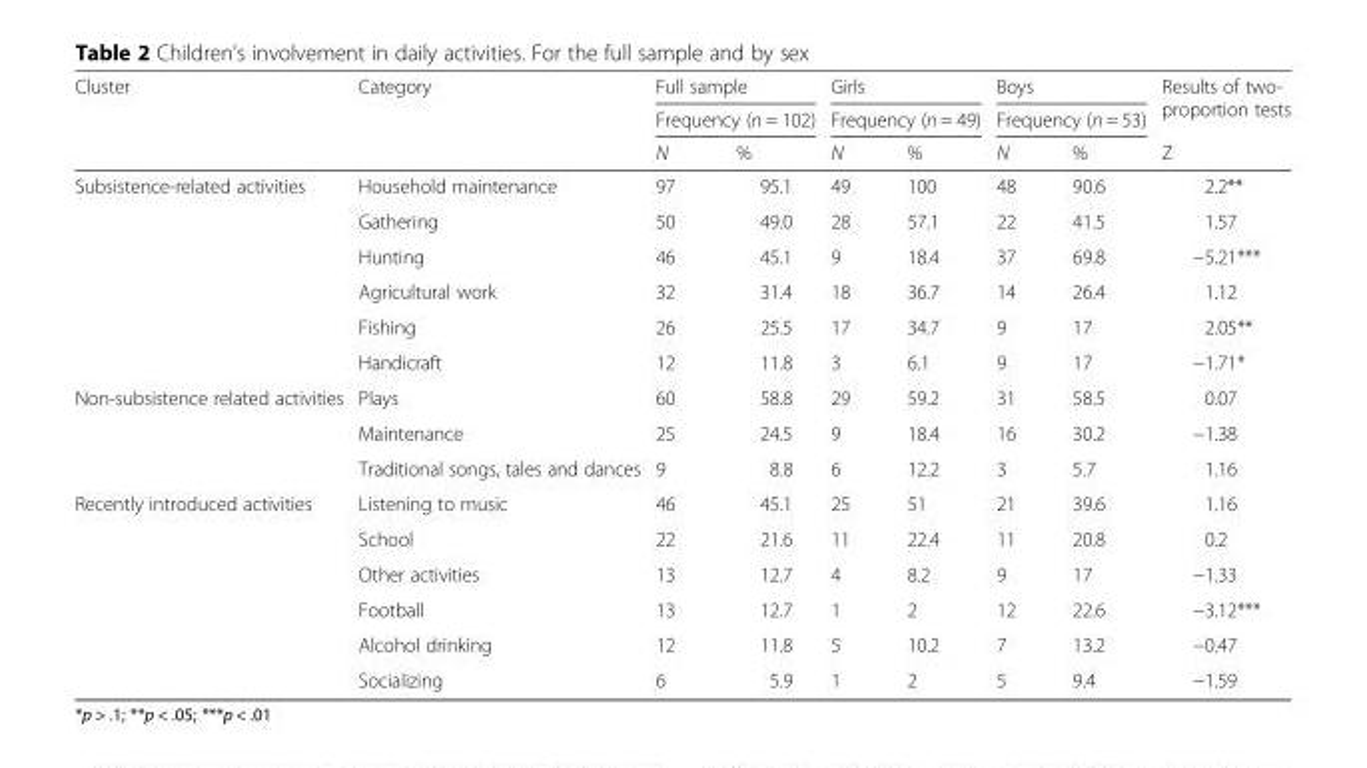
<table><thead><tr><td rowspan="3">Cluster</td><td rowspan="3">Category</td><td rowspan="2" colspan="2">Full sample Frequency (n = 102)</td><td rowspan="2" colspan="2">Girls Frequency (n = 49)</td><td rowspan="2" colspan="2">Boys Frequency (n = 53)</td><td rowspan="3">Results of two- proportion tests Z</td></tr><tr></tr><tr><td>N</td><td>%</td><td>N</td><td>%</td><td>N</td><td>%</td></tr></thead><tbody><tr><td rowspan="6">Subsistence-related activities</td><td>Household maintenance</td><td>97</td><td>95.1</td><td>49</td><td>100</td><td>48</td><td>90.6</td><td>2.2**</td></tr><tr><td>Gathering</td><td>50</td><td>49.0</td><td>28</td><td>57.1</td><td>22</td><td>41.5</td><td>1.57</td></tr><tr><td>Hunting</td><td>46</td><td>45.1</td><td>9</td><td>18.4</td><td>37</td><td>69.8</td><td>−5.21***</td></tr><tr><td>Agricultural work</td><td>32</td><td>31.4</td><td>18</td><td>36.7</td><td>14</td><td>26.4</td><td>1.12</td></tr><tr><td>Fishing</td><td>26</td><td>25.5</td><td>17</td><td>34.7</td><td>9</td><td>17</td><td>2.05**</td></tr><tr><td>Handicraft</td><td>12</td><td>11.8</td><td>3</td><td>6.1</td><td>9</td><td>17</td><td>−1.71*</td></tr><tr><td rowspan="3">Non-subsistence related activities</td><td>Plays</td><td>60</td><td>58.8</td><td>29</td><td>59.2</td><td>31</td><td>58.5</td><td>0.07</td></tr><tr><td>Maintenance</td><td>25</td><td>24.5</td><td>9</td><td>18.4</td><td>16</td><td>30.2</td><td>−1.38</td></tr><tr><td>Traditional songs, tales and dances</td><td>9</td><td>8.8</td><td>6</td><td>12.2</td><td>3</td><td>5.7</td><td>1.16</td></tr><tr><td rowspan="6">Recently introduced activities</td><td>Listening to music</td><td>46</td><td>45.1</td><td>25</td><td>51</td><td>21</td><td>39.6</td><td>1.16</td></tr><tr><td>School</td><td>22</td><td>21.6</td><td>11</td><td>22.4</td><td>11</td><td>20.8</td><td>0.2</td></tr><tr><td>Other activities</td><td>13</td><td>12.7</td><td>4</td><td>8.2</td><td>9</td><td>17</td><td>−1.33</td></tr><tr><td>Football</td><td>13</td><td>12.7</td><td>1</td><td>2</td><td>12</td><td>22.6</td><td>−3.12***</td></tr><tr><td>Alcohol drinking</td><td>12</td><td>11.8</td><td>5</td><td>10.2</td><td>7</td><td>13.2</td><td>−0.47</td></tr><tr><td>Socializing</td><td>6</td><td>5.9</td><td>1</td><td>2</td><td>5</td><td>9.4</td><td>−1.59</td></tr></tbody></table>